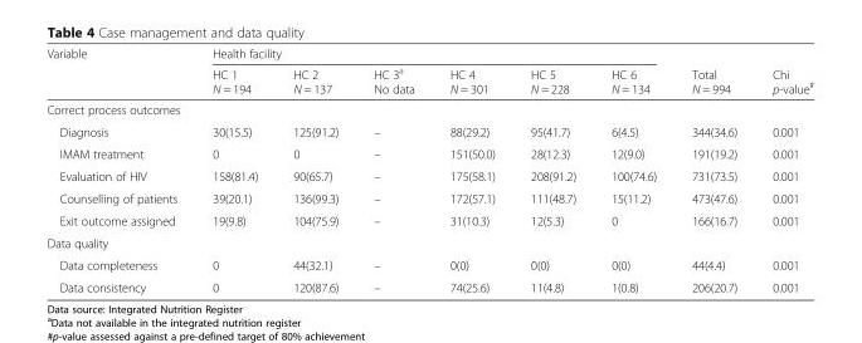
<table><thead><tr><td rowspan="2">Variable</td><td colspan="6">Health facility</td><td rowspan="2">Total N = 994</td><td rowspan="2">Chi p-value<sup>#</sup></td></tr><tr><td>HC 1 N = 194</td><td>HC 2 N = 137</td><td>HC 3<sup>a</sup> No data</td><td>HC 4 N = 301</td><td>HC 5 N = 228</td><td>HC 6 N = 134</td></tr></thead><tbody><tr><td colspan="9">Correct process outcomes</td></tr><tr><td>Diagnosis</td><td>30(15.5)</td><td>125(91.2)</td><td>–</td><td>88(29.2)</td><td>95(41.7)</td><td>6(4.5)</td><td>344(34.6)</td><td>0.001</td></tr><tr><td>IMAM treatment</td><td>0</td><td>0</td><td>–</td><td>151(50.0)</td><td>28(12.3)</td><td>12(9.0)</td><td>191(19.2)</td><td>0.001</td></tr><tr><td>Evaluation of HIV</td><td>158(81.4)</td><td>90(65.7)</td><td>–</td><td>175(58.1)</td><td>208(91.2)</td><td>100(74.6)</td><td>731(73.5)</td><td>0.001</td></tr><tr><td>Counselling of patients</td><td>39(20.1)</td><td>136(99.3)</td><td>–</td><td>172(57.1)</td><td>111(48.7)</td><td>15(11.2)</td><td>473(47.6)</td><td>0.001</td></tr><tr><td>Exit outcome assigned</td><td>19(9.8)</td><td>104(75.9)</td><td>–</td><td>31(10.3)</td><td>12(5.3)</td><td>0</td><td>166(16.7)</td><td>0.001</td></tr><tr><td colspan="9">Data quality</td></tr><tr><td>Data completeness</td><td>0</td><td>44(32.1)</td><td>–</td><td>0(0)</td><td>0(0)</td><td>0(0)</td><td>44(4.4)</td><td>0.001</td></tr><tr><td>Data consistency</td><td>0</td><td>120(87.6)</td><td>–</td><td>74(25.6)</td><td>11(4.8)</td><td>1(0.8)</td><td>206(20.7)</td><td>0.001</td></tr></tbody></table>